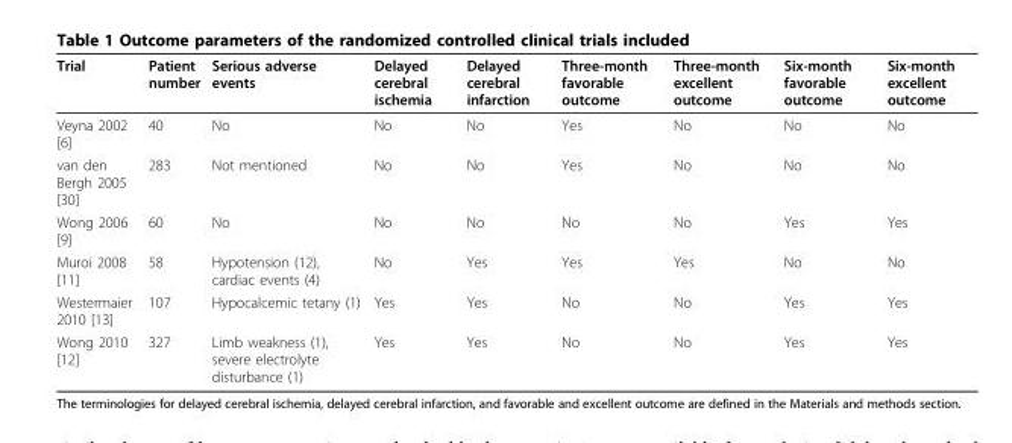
<table><thead><tr><td>Trial</td><td>Patient number</td><td>Serious adverse events</td><td>Delayed cerebral ischemia</td><td>Delayed cerebral infarction</td><td>Three-month favorable outcome</td><td>Three-month excellent outcome</td><td>Six-month favorable outcome</td><td>Six-month excellent outcome</td></tr></thead><tbody><tr><td>Veyna 2002 [6]</td><td>40</td><td>No</td><td>No</td><td>No</td><td>Yes</td><td>No</td><td>No</td><td>No</td></tr><tr><td>van den Bergh 2005 [30]</td><td>283</td><td>Not mentioned</td><td>No</td><td>No</td><td>Yes</td><td>No</td><td>No</td><td>No</td></tr><tr><td>Wong 2006 [9]</td><td>60</td><td>No</td><td>No</td><td>No</td><td>No</td><td>No</td><td>Yes</td><td>Yes</td></tr><tr><td>Muroi 2008 [11]</td><td>58</td><td>Hypotension (12), cardiac events (4)</td><td>No</td><td>Yes</td><td>Yes</td><td>Yes</td><td>No</td><td>No</td></tr><tr><td>Westermaier 2010 [13]</td><td>107</td><td>Hypocalcemic tetany (1)</td><td>Yes</td><td>Yes</td><td>No</td><td>No</td><td>Yes</td><td>Yes</td></tr><tr><td>Wong 2010 [12]</td><td>327</td><td>Limb weakness (1), severe electrolyte disturbance (1)</td><td>Yes</td><td>Yes</td><td>No</td><td>No</td><td>Yes</td><td>Yes</td></tr></tbody></table>